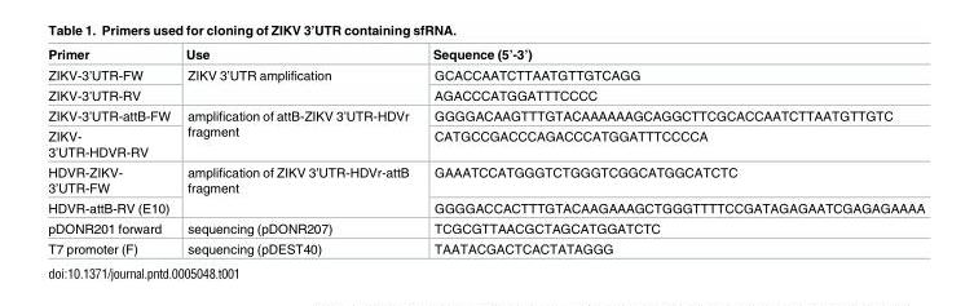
<table><thead><tr><td>Primer</td><td>Use</td><td>Sequence (5’-3’)</td></tr></thead><tbody><tr><td>ZIKV-3’UTR-FW</td><td rowspan="2">ZIKV 3’UTR amplification</td><td>GCACCAATCTTAATGTTGTCAGG</td></tr><tr><td>ZIKV-3’UTR-RV</td><td>AGACCCATGGATTTCCCC</td></tr><tr><td>ZIKV-3’UTR-attB-FW</td><td rowspan="2">amplification of attB-ZIKV 3’UTR-HDVr fragment</td><td>GGGGACAAGTTTGTACAAAAAAGCAGGCTTCGCACCAATCTTAATGTTGTC</td></tr><tr><td>ZIKV- 3’UTR-HDVR-RV</td><td>CATGCCGACCCAGACCCATGGATTTCCCCA</td></tr><tr><td>HDVR-ZIKV- 3’UTR-FW</td><td rowspan="2">amplification of ZIKV 3’UTR-HDVr-attB fragment</td><td>GAAATCCATGGGTCTGGGTCGGCATGGCATCTC</td></tr><tr><td>HDVR-attB-RV (E10)</td><td>GGGGACCACTTTGTACAAGAAAGCTGGGTTTTCCGATAGAGAATCGAGAGAAAA</td></tr><tr><td>pDONR201 forward</td><td>sequencing (pDONR207)</td><td>TCGCGTTAACGCTAGCATGGATCTC</td></tr><tr><td>T7 promoter (F)</td><td>sequencing (pDEST40)</td><td>TAATACGACTCACTATAGGG</td></tr></tbody></table>